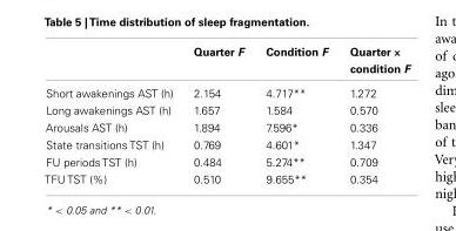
<table><thead><tr><td></td><td>Quarter F</td><td>Condition F</td><td>Quarter × condition F</td></tr></thead><tbody><tr><td>Short awakenings AST (h)</td><td>2.154</td><td>4.717**</td><td>1.272</td></tr><tr><td>Long awakenings AST (h)</td><td>1.657</td><td>1.584</td><td>0.570</td></tr><tr><td>Arousals AST (h)</td><td>1.894</td><td>7.596*</td><td>0.336</td></tr><tr><td>State transitions TST (h)</td><td>0.769</td><td>4.601*</td><td>1.347</td></tr><tr><td>FU periods TST (h)</td><td>0.484</td><td>5.274**</td><td>0.709</td></tr><tr><td>TFU TST (%)</td><td>0.510</td><td>9.655**</td><td>0.354</td></tr></tbody></table>